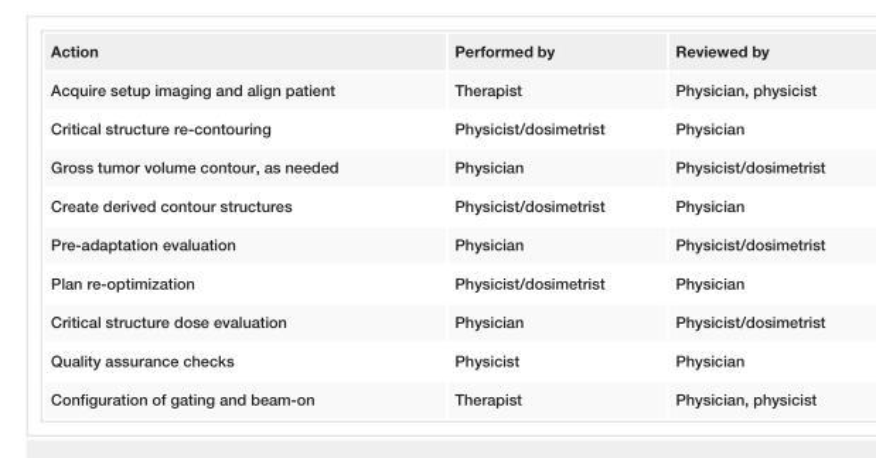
<table><tbody><tr><td>Action</td><td>Performed by</td><td>Reviewed by</td></tr><tr><td>Acquire setup imaging and align patient</td><td>Therapist</td><td>Physician, physicist</td></tr><tr><td>Critical structure re-contouring</td><td>Physicist/dosimetrist</td><td>Physician</td></tr><tr><td>Gross tumor volume contour, as needed</td><td>Physician</td><td>Physicist/dosimetrist</td></tr><tr><td>Create derived contour structures</td><td>Physicist/dosimetrist</td><td>Physician</td></tr><tr><td>Pre-adaptation evaluation</td><td>Physician</td><td>Physicist/dosimetrist</td></tr><tr><td>Plan re-optimization</td><td>Physicist/dosimetrist</td><td>Physician</td></tr><tr><td>Critical structure dose evaluation</td><td>Physician</td><td>Physicist/dosimetrist</td></tr><tr><td>Quality assurance checks</td><td>Physicist</td><td>Physician</td></tr><tr><td>Configuration of gating and beam-on</td><td>Therapist</td><td>Physician, physicist</td></tr></tbody></table>